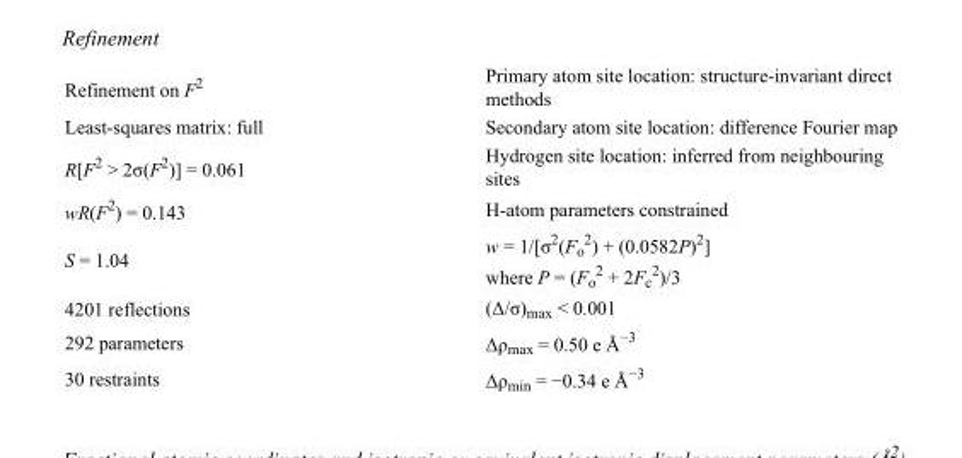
<table><tbody><tr><td>Refinement on F<sup>2</sup></td><td>Primary atom site location: structure-invariant direct methods</td></tr><tr><td>Least-squares matrix: full</td><td>Secondary atom site location: difference Fourier map</td></tr><tr><td>R[F<sup>2</sup> &gt; 2σ(F<sup>2</sup>)] = 0.061</td><td>Hydrogen site location: inferred from neighbouring sites</td></tr><tr><td>wR(F<sup>2</sup>) = 0.143</td><td>H-atom parameters constrained</td></tr><tr><td>S = 1.04</td><td>w = 1/[σ<sup>2</sup>(F<sub>o</sub> <sup>2</sup>) + (0.0582P)<sup>2</sup>] where P = (F<sub>o</sub> <sup>2</sup> + 2F<sub>c</sub> <sup>2</sup>)/3</td></tr><tr><td>4201 reflections</td><td>(Δ/σ)<sub>max</sub> &lt; 0.001</td></tr><tr><td>292 parameters</td><td>Δρ<sub>max</sub> = 0.50 e Å<sup>−3</sup></td></tr><tr><td>30 restraints</td><td>Δρ<sub>min</sub> = −0.34 e Å<sup>−3</sup></td></tr></tbody></table>